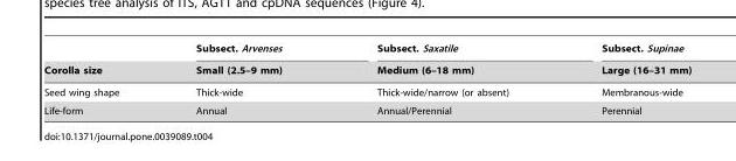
<table><thead><tr><td rowspan="2">Corolla size</td><td rowspan="2">Subsect. Arvenses Small (2.5–9 mm)</td><td rowspan="2">Subsect. Saxatile Medium (6–18 mm)</td><td rowspan="2">Subsect. Supinae Large (16–31 mm)</td></tr><tr></tr></thead><tbody><tr><td>Seed wing shape</td><td>Thick-wide</td><td>Thick-wide/narrow (or absent)</td><td>Membranous-wide</td></tr><tr><td>Life-form</td><td>Annual</td><td>Annual/Perennial</td><td>Perennial</td></tr></tbody></table>